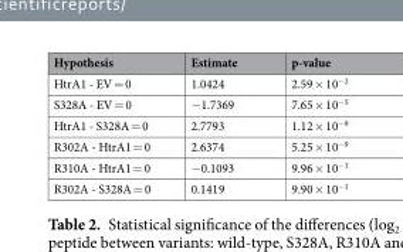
<table><thead><tr><td>Hypothesis</td><td>Estimate</td><td>p-value</td></tr></thead><tbody><tr><td>HtrA1 - EV = 0</td><td>1.0424</td><td>2.59 × 10<sup>−2</sup></td></tr><tr><td>S328A - EV = 0</td><td>−1.7369</td><td>7.65 × 10<sup>−5</sup></td></tr><tr><td>HtrA1 - S328A = 0</td><td>2.7793</td><td>1.12 × 10<sup>−9</sup></td></tr><tr><td>R302A - HtrA1 = 0</td><td>2.6374</td><td>5.25 × 10<sup>−9</sup></td></tr><tr><td>R310A - HtrA1 = 0</td><td>−0.1093</td><td>9.96 × 10<sup>−1</sup></td></tr><tr><td>R302A - S328A = 0</td><td>0.1419</td><td>9.90 × 10<sup>−1</sup></td></tr></tbody></table>